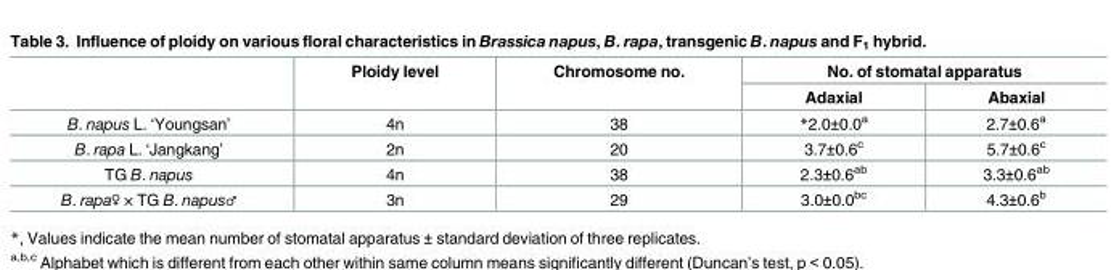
<table><thead><tr><td rowspan="2"></td><td rowspan="2">Ploidy level</td><td rowspan="2">Chromosome no.</td><td colspan="2">No. of stomatal apparatus</td></tr><tr><td>Adaxial</td><td>Abaxial</td></tr></thead><tbody><tr><td>B. napus L. ‘Youngsan’</td><td>4n</td><td>38</td><td>*2.0±0.0<sup>a</sup></td><td>2.7±0.6<sup>a</sup></td></tr><tr><td>B. rapa L. ‘Jangkang’</td><td>2n</td><td>20</td><td>3.7±0.6<sup>c</sup></td><td>5.7±0.6<sup>c</sup></td></tr><tr><td>TG B. napus</td><td>4n</td><td>38</td><td>2.3±0.6<sup>ab</sup></td><td>3.3±0.6<sup>ab</sup></td></tr><tr><td>B. rapa♀ × TG B. napus♂</td><td>3n</td><td>29</td><td>3.0±0.0<sup>bc</sup></td><td>4.3±0.6<sup>b</sup></td></tr></tbody></table>